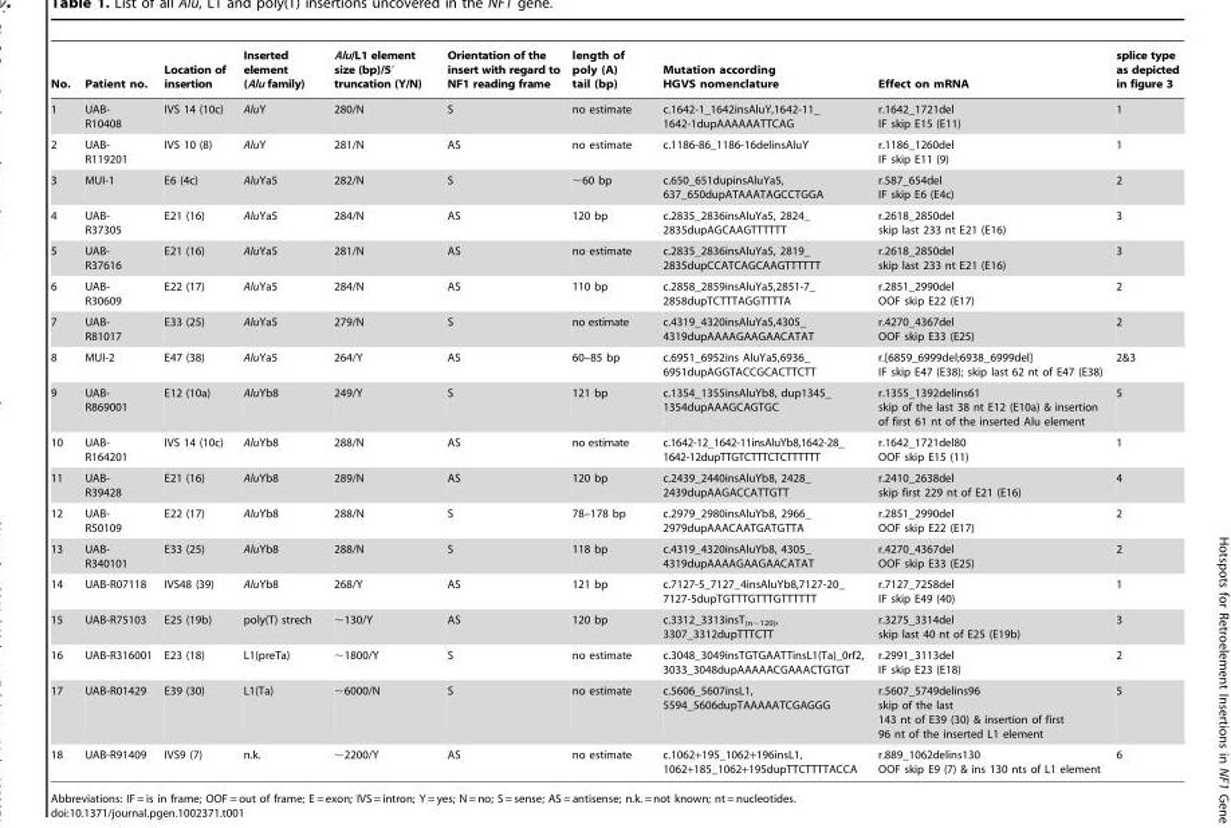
<table><thead><tr><td>No.</td><td>Patient no.</td><td>Location of insertion</td><td>Inserted element (Alu family)</td><td>Alu/L1 element size (bp)/5′ truncation (Y/N)</td><td>Orientation of the insert with regard to NF1 reading frame</td><td>length of poly (A) tail (bp)</td><td>Mutation according HGVS nomenclature</td><td>Effect on mRNA</td><td>splice type as depicted in figure 3</td></tr></thead><tbody><tr><td>1</td><td>UAB- R10408</td><td>IVS 14 (10c)</td><td>AluY</td><td>280/N</td><td>S</td><td>no estimate</td><td>c.1642-1_1642insAluY,1642-11_ 1642-1dupAAAAAATTCAG</td><td>r.1642_1721del IF skip E15 (E11)</td><td>1</td></tr><tr><td>2</td><td>UAB- R119201</td><td>IVS 10 (8)</td><td>AluY</td><td>281/N</td><td>AS</td><td>no estimate</td><td>c.1186-86_1186-16delinsAluY</td><td>r.1186_1260del IF skip E11 (9)</td><td>1</td></tr><tr><td>3</td><td>MUI-1</td><td>E6 (4c)</td><td>AluYa5</td><td>282/N</td><td>S</td><td>∼60 bp</td><td>c.650_651dupinsAluYa5, 637_650dupATAAATAGCCTGGA</td><td>r.587_654del IF skip E6 (E4c)</td><td>2</td></tr><tr><td>4</td><td>UAB- R37305</td><td>E21 (16)</td><td>AluYa5</td><td>284/N</td><td>AS</td><td>120 bp</td><td>c.2835_2836insAluYa5, 2824_ 2835dupAGCAAGTTTTTT</td><td>r.2618_2850del skip last 233 nt E21 (E16)</td><td>3</td></tr><tr><td>5</td><td>UAB- R37616</td><td>E21 (16)</td><td>AluYa5</td><td>281/N</td><td>AS</td><td>no estimate</td><td>c.2835_2836insAluYa5, 2819_ 2835dupCCATCAGCAAGTTTTTT</td><td>r.2618_2850del skip last 233 nt E21 (E16)</td><td>3</td></tr><tr><td>6</td><td>UAB- R30609</td><td>E22 (17)</td><td>AluYa5</td><td>284/N</td><td>AS</td><td>110 bp</td><td>c.2858_2859insAluYa5,2851-7_ 2858dupTCTTTAGGTTTTA</td><td>r.2851_2990del OOF skip E22 (E17)</td><td>2</td></tr><tr><td>7</td><td>UAB- R81017</td><td>E33 (25)</td><td>AluYa5</td><td>279/N</td><td>S</td><td>no estimate</td><td>c.4319_4320insAluYa5,4305_ 4319dupAAAAGAAGAACATAT</td><td>r.4270_4367del OOF skip E33 (E25)</td><td>2</td></tr><tr><td>8</td><td>MUI-2</td><td>E47 (38)</td><td>AluYa5</td><td>264/Y</td><td>AS</td><td>60–85 bp</td><td>c.6951_6952ins AluYa5,6936_ 6951dupAGGTACCGCACTTCTT</td><td>r.[6859_6999del;6938_6999del] IF skip E47 (E38); skip last 62 nt of E47 (E38)</td><td>2&amp;3</td></tr><tr><td>9</td><td>UAB- R869001</td><td>E12 (10a)</td><td>AluYb8</td><td>249/Y</td><td>S</td><td>121 bp</td><td>c.1354_1355insAluYb8, dup1345_ 1354dupAAAGCAGTGC</td><td>r.1355_1392delins61 skip of the last 38 nt E12 (E10a) &amp; insertion of first 61 nt of the inserted Alu element</td><td>5</td></tr><tr><td>10</td><td>UAB- R164201</td><td>IVS 14 (10c)</td><td>AluYb8</td><td>288/N</td><td>AS</td><td>no estimate</td><td>c.1642-12_1642-11insAluYb8,1642-28_ 1642-12dupTTGTCTTTCTCTTTTTT</td><td>r.1642_1721del80 OOF skip E15 (11)</td><td>1</td></tr><tr><td>11</td><td>UAB- R39428</td><td>E21 (16)</td><td>AluYb8</td><td>289/N</td><td>AS</td><td>120 bp</td><td>c.2439_2440insAluYb8, 2428_ 2439dupAAGACCATTGTT</td><td>r.2410_2638del skip first 229 nt of E21 (E16)</td><td>4</td></tr><tr><td>12</td><td>UAB- R50109</td><td>E22 (17)</td><td>AluYb8</td><td>288/N</td><td>S</td><td>78–178 bp</td><td>c.2979_2980insAluYb8, 2966_ 2979dupAAACAATGATGTTA</td><td>r.2851_2990del OOF skip E22 (E17)</td><td>2</td></tr><tr><td>13</td><td>UAB- R340101</td><td>E33 (25)</td><td>AluYb8</td><td>288/N</td><td>S</td><td>118 bp</td><td>c.4319_4320insAluYb8, 4305_ 4319dupAAAAGAAGAACATAT</td><td>r.4270_4367del OOF skip E33 (E25)</td><td>2</td></tr><tr><td>14</td><td>UAB-R07118</td><td>IVS48 (39)</td><td>AluYb8</td><td>268/Y</td><td>AS</td><td>121 bp</td><td>c.7127-5_7127_4insAluYb8,7127-20_ 7127-5dupTGTTTGTTTGTTTTTT</td><td>r.7127_7258del IF skip E49 (40)</td><td>1</td></tr><tr><td>15</td><td>UAB-R75103</td><td>E25 (19b)</td><td>poly(T) strech</td><td>∼130/Y</td><td>AS</td><td>120 bp</td><td>c.3312_3313insT<sub>(n∼120)</sub>, 3307_3312dupTTTCTT</td><td>r.3275_3314del skip last 40 nt of E25 (E19b)</td><td>3</td></tr><tr><td>16</td><td>UAB-R316001</td><td>E23 (18)</td><td>L1(preTa)</td><td>∼1800/Y</td><td>S</td><td>no estimate</td><td>c.3048_3049insTGTGAATTinsL1(Ta)_0rf2, 3033_3048dupAAAAACGAAACTGTGT</td><td>r.2991_3113del IF skip E23 (E18)</td><td>2</td></tr><tr><td>17</td><td>UAB-R01429</td><td>E39 (30)</td><td>L1(Ta)</td><td>∼6000/N</td><td>S</td><td>no estimate</td><td>c.5606_5607insL1, 5594_5606dupTAAAAATCGAGGG</td><td>r.5607_5749delins96 skip of the last 143 nt of E39 (30) &amp; insertion of first 96 nt of the inserted L1 element</td><td>5</td></tr><tr><td>18</td><td>UAB-R91409</td><td>IVS9 (7)</td><td>n.k.</td><td>∼2200/Y</td><td>AS</td><td>no estimate</td><td>c.1062+195_1062+196insL1, 1062+185_1062+195dupTTCTTTTACCA</td><td>r.889_1062delins130 OOF skip E9 (7) &amp; ins 130 nts of L1 element</td><td>6</td></tr></tbody></table>